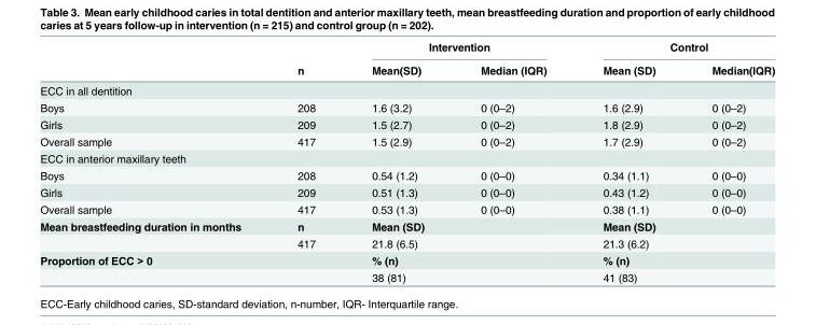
<table><thead><tr><td rowspan="2"></td><td rowspan="2">n</td><td colspan="2">Intervention</td><td colspan="2">Control</td></tr><tr><td>Mean(SD)</td><td>Median (IQR)</td><td>Mean (SD)</td><td>Median(IQR)</td></tr></thead><tbody><tr><td colspan="6">ECC in all dentition</td></tr><tr><td>Boys</td><td>208</td><td>1.6 (3.2)</td><td>0 (0–2)</td><td>1.6 (2.9)</td><td>0 (0–2)</td></tr><tr><td>Girls</td><td>209</td><td>1.5 (2.7)</td><td>0 (0–2)</td><td>1.8 (2.9)</td><td>0 (0–2)</td></tr><tr><td>Overall sample</td><td>417</td><td>1.5 (2.9)</td><td>0 (0–2)</td><td>1.7 (2.9)</td><td>0 (0–2)</td></tr><tr><td colspan="6">ECC in anterior maxillary teeth</td></tr><tr><td>Boys</td><td>208</td><td>0.54 (1.2)</td><td>0 (0–0)</td><td>0.34 (1.1)</td><td>0 (0–0)</td></tr><tr><td>Girls</td><td>209</td><td>0.51 (1.3)</td><td>0 (0–0)</td><td>0.43 (1.2)</td><td>0 (0–0)</td></tr><tr><td>Overall sample</td><td>417</td><td>0.53 (1.3)</td><td>0 (0–0)</td><td>0.38 (1.1)</td><td>0 (0–0)</td></tr><tr><td rowspan="2">Mean breastfeeding duration in months</td><td>n</td><td>Mean (SD)</td><td></td><td>Mean (SD)</td><td></td></tr><tr><td>417</td><td>21.8 (6.5)</td><td></td><td>21.3 (6.2)</td><td></td></tr><tr><td rowspan="2">Proportion of ECC &gt; 0</td><td></td><td>% (n)</td><td></td><td>% (n)</td><td></td></tr><tr><td></td><td>38 (81)</td><td></td><td>41 (83)</td><td></td></tr></tbody></table>